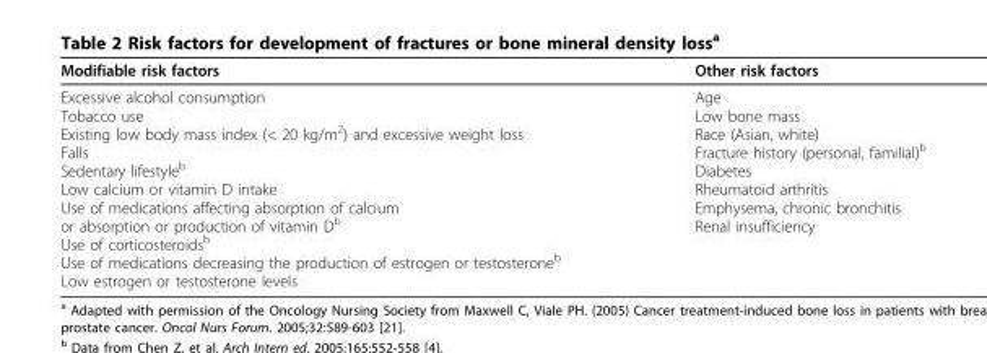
<table><thead><tr><td>Modifiable risk factors</td><td>Other risk factors</td></tr></thead><tbody><tr><td>Excessive alcohol consumption Tobacco use Existing low body mass index (&lt; 20 kg/m<sup>2</sup>) and excessive weight loss Falls Sedentary lifestyle<sup>b</sup> Low calcium or vitamin D intake Use of medications affecting absorption of calcium or absorption or production of vitamin D<sup>b</sup> Use of corticosteroids<sup>b</sup> Use of medications decreasing the production of estrogen or testosterone<sup>b</sup> Low estrogen or testosterone levels</td><td>Age Low bone mass Race (Asian, white) Fracture history (personal, familial)<sup>b</sup> Diabetes Rheumatoid arthritis Emphysema, chronic bronchitis Renal insufficiency</td></tr></tbody></table>